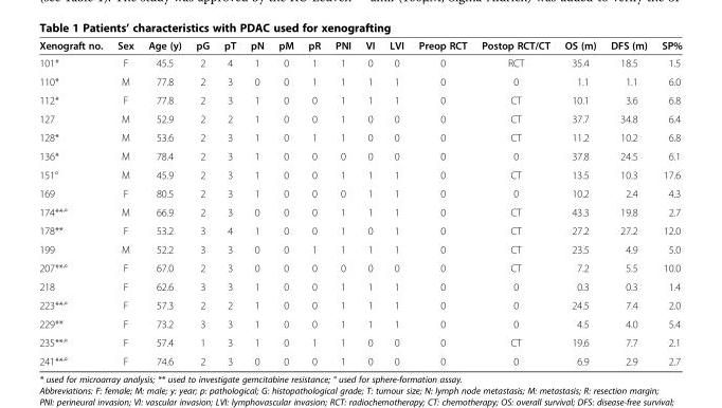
<table><thead><tr><td>Xenograft no.</td><td>Sex</td><td>Age (y)</td><td>pG</td><td>pT</td><td>pN</td><td>pM</td><td>pR</td><td>PNI</td><td>VI</td><td>LVI</td><td>Preop RCT</td><td>Postop RCT/CT</td><td>OS (m)</td><td>DFS (m)</td><td>SP%</td></tr></thead><tbody><tr><td>101*</td><td>F</td><td>45.5</td><td>2</td><td>4</td><td>1</td><td>0</td><td>1</td><td>1</td><td>0</td><td>0</td><td>0</td><td>RCT</td><td>35.4</td><td>18.5</td><td>1.5</td></tr><tr><td>110*</td><td>M</td><td>77.8</td><td>2</td><td>3</td><td>0</td><td>0</td><td>1</td><td>1</td><td>1</td><td>1</td><td>0</td><td>0</td><td>1.1</td><td>1.1</td><td>6.0</td></tr><tr><td>112*</td><td>F</td><td>77.8</td><td>2</td><td>3</td><td>1</td><td>0</td><td>0</td><td>1</td><td>1</td><td>1</td><td>0</td><td>CT</td><td>10.1</td><td>3.6</td><td>6.8</td></tr><tr><td>127</td><td>M</td><td>52.9</td><td>2</td><td>2</td><td>1</td><td>0</td><td>0</td><td>1</td><td>0</td><td>0</td><td>0</td><td>CT</td><td>37.7</td><td>34.8</td><td>6.4</td></tr><tr><td>128*</td><td>M</td><td>53.6</td><td>2</td><td>3</td><td>1</td><td>0</td><td>1</td><td>1</td><td>0</td><td>0</td><td>0</td><td>CT</td><td>11.2</td><td>10.2</td><td>6.8</td></tr><tr><td>136*</td><td>M</td><td>78.4</td><td>2</td><td>3</td><td>1</td><td>0</td><td>0</td><td>0</td><td>0</td><td>0</td><td>0</td><td>0</td><td>37.8</td><td>24.5</td><td>6.1</td></tr><tr><td>151°</td><td>M</td><td>45.9</td><td>2</td><td>3</td><td>1</td><td>0</td><td>0</td><td>1</td><td>1</td><td>1</td><td>0</td><td>CT</td><td>13.5</td><td>10.3</td><td>17.6</td></tr><tr><td>169</td><td>F</td><td>80.5</td><td>2</td><td>3</td><td>1</td><td>0</td><td>0</td><td>0</td><td>1</td><td>1</td><td>0</td><td>0</td><td>10.2</td><td>2.4</td><td>4.3</td></tr><tr><td>174**<sup>,</sup>°</td><td>M</td><td>66.9</td><td>2</td><td>3</td><td>0</td><td>0</td><td>0</td><td>1</td><td>1</td><td>1</td><td>0</td><td>CT</td><td>43.3</td><td>19.8</td><td>2.7</td></tr><tr><td>178**</td><td>F</td><td>53.2</td><td>3</td><td>4</td><td>1</td><td>0</td><td>0</td><td>1</td><td>0</td><td>1</td><td>0</td><td>CT</td><td>27.2</td><td>27.2</td><td>12.0</td></tr><tr><td>199</td><td>M</td><td>52.2</td><td>3</td><td>3</td><td>0</td><td>0</td><td>1</td><td>1</td><td>1</td><td>1</td><td>0</td><td>CT</td><td>23.5</td><td>4.9</td><td>5.0</td></tr><tr><td>207**<sup>,</sup>°</td><td>F</td><td>67.0</td><td>2</td><td>3</td><td>0</td><td>0</td><td>0</td><td>0</td><td>0</td><td>0</td><td>0</td><td>CT</td><td>7.2</td><td>5.5</td><td>10.0</td></tr><tr><td>218</td><td>F</td><td>62.6</td><td>3</td><td>3</td><td>1</td><td>0</td><td>0</td><td>1</td><td>1</td><td>1</td><td>0</td><td>0</td><td>0.3</td><td>0.3</td><td>1.4</td></tr><tr><td>223**<sup>,</sup>°</td><td>F</td><td>57.3</td><td>2</td><td>2</td><td>1</td><td>0</td><td>0</td><td>1</td><td>1</td><td>1</td><td>0</td><td>0</td><td>24.5</td><td>7.4</td><td>2.0</td></tr><tr><td>229**</td><td>F</td><td>73.2</td><td>3</td><td>3</td><td>1</td><td>0</td><td>0</td><td>1</td><td>1</td><td>1</td><td>0</td><td>0</td><td>4.5</td><td>4.0</td><td>5.4</td></tr><tr><td>235**<sup>,</sup>°</td><td>F</td><td>57.4</td><td>1</td><td>3</td><td>1</td><td>0</td><td>1</td><td>1</td><td>0</td><td>0</td><td>0</td><td>CT</td><td>19.6</td><td>7.7</td><td>2.1</td></tr><tr><td>241**<sup>,</sup>°</td><td>F</td><td>74.6</td><td>2</td><td>3</td><td>0</td><td>0</td><td>0</td><td>1</td><td>0</td><td>0</td><td>0</td><td>0</td><td>6.9</td><td>2.9</td><td>2.7</td></tr></tbody></table>